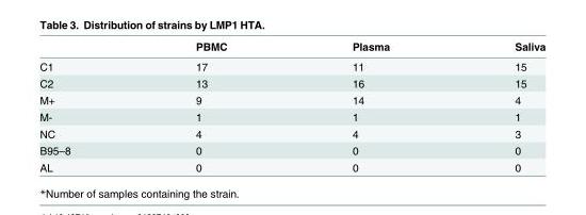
<table><thead><tr><td></td><td>PBMC</td><td>Plasma</td><td>Saliva</td></tr></thead><tbody><tr><td>C1</td><td>17</td><td>11</td><td>15</td></tr><tr><td>C2</td><td>13</td><td>16</td><td>15</td></tr><tr><td>M+</td><td>9</td><td>14</td><td>4</td></tr><tr><td>M-</td><td>1</td><td>1</td><td>1</td></tr><tr><td>NC</td><td>4</td><td>4</td><td>3</td></tr><tr><td>B95–8</td><td>0</td><td>0</td><td>0</td></tr><tr><td>AL</td><td>0</td><td>0</td><td>0</td></tr></tbody></table>